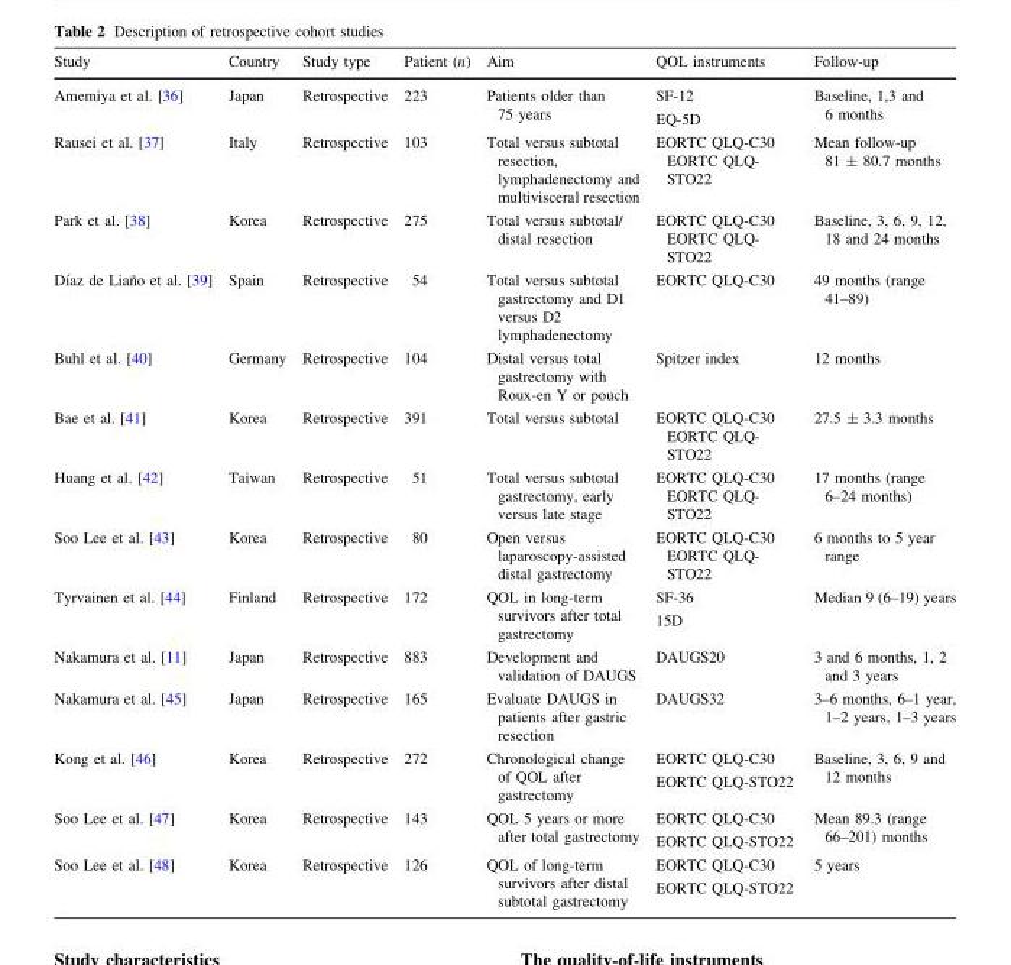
<table><thead><tr><td>Study</td><td>Country</td><td>Study type</td><td>Patient (n)</td><td>Aim</td><td>QOL instruments</td><td>Follow-up</td></tr></thead><tbody><tr><td>Amemiya et al. [36]</td><td>Japan</td><td>Retrospective</td><td>223</td><td>Patients older than 75 years</td><td>SF-12 EQ-5D</td><td>Baseline, 1,3 and 6 months</td></tr><tr><td>Rausei et al. [37]</td><td>Italy</td><td>Retrospective</td><td>103</td><td>Total versus subtotal resection, lymphadenectomy and multivisceral resection</td><td>EORTC QLQ-C30 EORTC QLQ- STO22</td><td>Mean follow-up 81 ± 80.7 months</td></tr><tr><td>Park et al. [38]</td><td>Korea</td><td>Retrospective</td><td>275</td><td>Total versus subtotal/ distal resection</td><td>EORTC QLQ-C30 EORTC QLQ- STO22</td><td>Baseline, 3, 6, 9, 12, 18 and 24 months</td></tr><tr><td>Dı´az de Lian˜o et al. [39]</td><td>Spain</td><td>Retrospective</td><td>54</td><td>Total versus subtotal gastrectomy and D1 versus D2 lymphadenectomy</td><td>EORTC QLQ-C30</td><td>49 months (range 41–89)</td></tr><tr><td>Buhl et al. [40]</td><td>Germany</td><td>Retrospective</td><td>104</td><td>Distal versus total gastrectomy with Roux-en Y or pouch</td><td>Spitzer index</td><td>12 months</td></tr><tr><td>Bae et al. [41]</td><td>Korea</td><td>Retrospective</td><td>391</td><td>Total versus subtotal</td><td>EORTC QLQ-C30 EORTC QLQ- STO22</td><td>27.5 ± 3.3 months</td></tr><tr><td>Huang et al. [42]</td><td>Taiwan</td><td>Retrospective</td><td>51</td><td>Total versus subtotal gastrectomy, early versus late stage</td><td>EORTC QLQ-C30 EORTC QLQ- STO22</td><td>17 months (range 6–24 months)</td></tr><tr><td>Soo Lee et al. [43]</td><td>Korea</td><td>Retrospective</td><td>80</td><td>Open versus laparoscopy-assisted distal gastrectomy</td><td>EORTC QLQ-C30 EORTC QLQ- STO22</td><td>6 months to 5 year range</td></tr><tr><td>Tyrvainen et al. [44]</td><td>Finland</td><td>Retrospective</td><td>172</td><td>QOL in long-term survivors after total gastrectomy</td><td>SF-36 15D</td><td>Median 9 (6–19) years</td></tr><tr><td>Nakamura et al. [11]</td><td>Japan</td><td>Retrospective</td><td>883</td><td>Development and validation of DAUGS</td><td>DAUGS20</td><td>3 and 6 months, 1, 2 and 3 years</td></tr><tr><td>Nakamura et al. [45]</td><td>Japan</td><td>Retrospective</td><td>165</td><td>Evaluate DAUGS in patients after gastric resection</td><td>DAUGS32</td><td>3–6 months, 6–1 year, 1–2 years, 1–3 years</td></tr><tr><td>Kong et al. [46]</td><td>Korea</td><td>Retrospective</td><td>272</td><td>Chronological change of QOL after gastrectomy</td><td>EORTC QLQ-C30 EORTC QLQ-STO22</td><td>Baseline, 3, 6, 9 and 12 months</td></tr><tr><td>Soo Lee et al. [47]</td><td>Korea</td><td>Retrospective</td><td>143</td><td>QOL 5 years or more after total gastrectomy</td><td>EORTC QLQ-C30 EORTC QLQ-STO22</td><td>Mean 89.3 (range 66–201) months</td></tr><tr><td>Soo Lee et al. [48]</td><td>Korea</td><td>Retrospective</td><td>126</td><td>QOL of long-term survivors after distal subtotal gastrectomy</td><td>EORTC QLQ-C30 EORTC QLQ-STO22</td><td>5 years</td></tr></tbody></table>